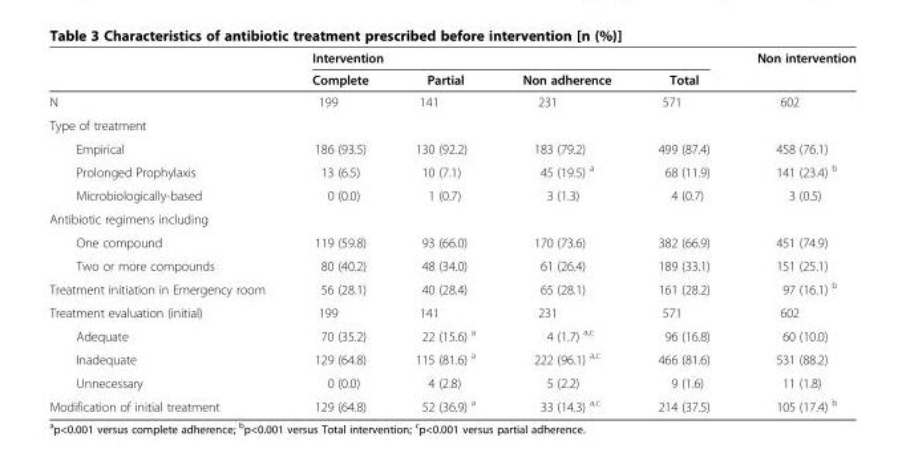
<table><thead><tr><td rowspan="2"></td><td colspan="4">Intervention</td><td rowspan="2">Non intervention</td></tr><tr><td>Complete</td><td>Partial</td><td>Non adherence</td><td>Total</td></tr></thead><tbody><tr><td>N</td><td>199</td><td>141</td><td>231</td><td>571</td><td>602</td></tr><tr><td colspan="6">Type of treatment</td></tr><tr><td>Empirical</td><td>186 (93.5)</td><td>130 (92.2)</td><td>183 (79.2)</td><td>499 (87.4)</td><td>458 (76.1)</td></tr><tr><td>Prolonged Prophylaxis</td><td>13 (6.5)</td><td>10 (7.1)</td><td>45 (19.5) <sup>a</sup></td><td>68 (11.9)</td><td>141 (23.4) <sup>b</sup></td></tr><tr><td>Microbiologically-based</td><td>0 (0.0)</td><td>1 (0.7)</td><td>3 (1.3)</td><td>4 (0.7)</td><td>3 (0.5)</td></tr><tr><td colspan="6">Antibiotic regimens including</td></tr><tr><td>One compound</td><td>119 (59.8)</td><td>93 (66.0)</td><td>170 (73.6)</td><td>382 (66.9)</td><td>451 (74.9)</td></tr><tr><td>Two or more compounds</td><td>80 (40.2)</td><td>48 (34.0)</td><td>61 (26.4)</td><td>189 (33.1)</td><td>151 (25.1)</td></tr><tr><td>Treatment initiation in Emergency room</td><td>56 (28.1)</td><td>40 (28.4)</td><td>65 (28.1)</td><td>161 (28.2)</td><td>97 (16.1) <sup>b</sup></td></tr><tr><td>Treatment evaluation (initial)</td><td>199</td><td>141</td><td>231</td><td>571</td><td>602</td></tr><tr><td>Adequate</td><td>70 (35.2)</td><td>22 (15.6) <sup>a</sup></td><td>4 (1.7) <sup>a,c</sup></td><td>96 (16.8)</td><td>60 (10.0)</td></tr><tr><td>Inadequate</td><td>129 (64.8)</td><td>115 (81.6) <sup>a</sup></td><td>222 (96.1) <sup>a,c</sup></td><td>466 (81.6)</td><td>531 (88.2)</td></tr><tr><td>Unnecessary</td><td>0 (0.0)</td><td>4 (2.8)</td><td>5 (2.2)</td><td>9 (1.6)</td><td>11 (1.8)</td></tr><tr><td>Modification of initial treatment</td><td>129 (64.8)</td><td>52 (36.9) <sup>a</sup></td><td>33 (14.3) <sup>a,c</sup></td><td>214 (37.5)</td><td>105 (17.4) <sup>b</sup></td></tr></tbody></table>